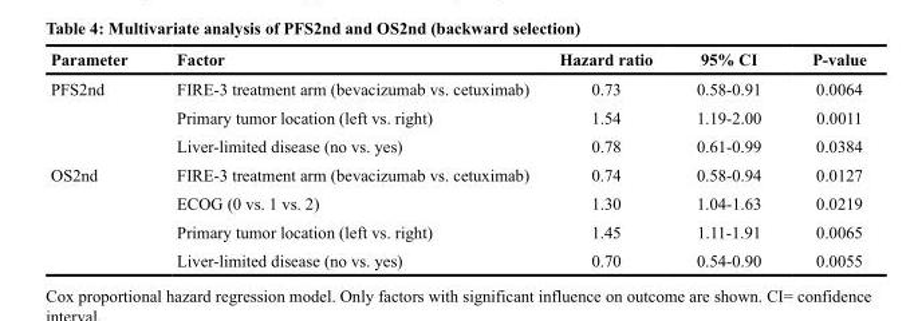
<table><thead><tr><td>Parameter</td><td>Factor</td><td>Hazard ratio</td><td>95% CI</td><td>P-value</td></tr></thead><tbody><tr><td rowspan="3">PFS2nd</td><td>FIRE-3 treatment arm (bevacizumab vs. cetuximab)</td><td>0.73</td><td>0.58-0.91</td><td>0.0064</td></tr><tr><td>Primary tumor location (left vs. right)</td><td>1.54</td><td>1.19-2.00</td><td>0.0011</td></tr><tr><td>Liver-limited disease (no vs. yes)</td><td>0.78</td><td>0.61-0.99</td><td>0.0384</td></tr><tr><td rowspan="4">OS2nd</td><td>FIRE-3 treatment arm (bevacizumab vs. cetuximab)</td><td>0.74</td><td>0.58-0.94</td><td>0.0127</td></tr><tr><td>ECOG (0 vs. 1 vs. 2)</td><td>1.30</td><td>1.04-1.63</td><td>0.0219</td></tr><tr><td>Primary tumor location (left vs. right)</td><td>1.45</td><td>1.11-1.91</td><td>0.0065</td></tr><tr><td>Liver-limited disease (no vs. yes)</td><td>0.70</td><td>0.54-0.90</td><td>0.0055</td></tr></tbody></table>